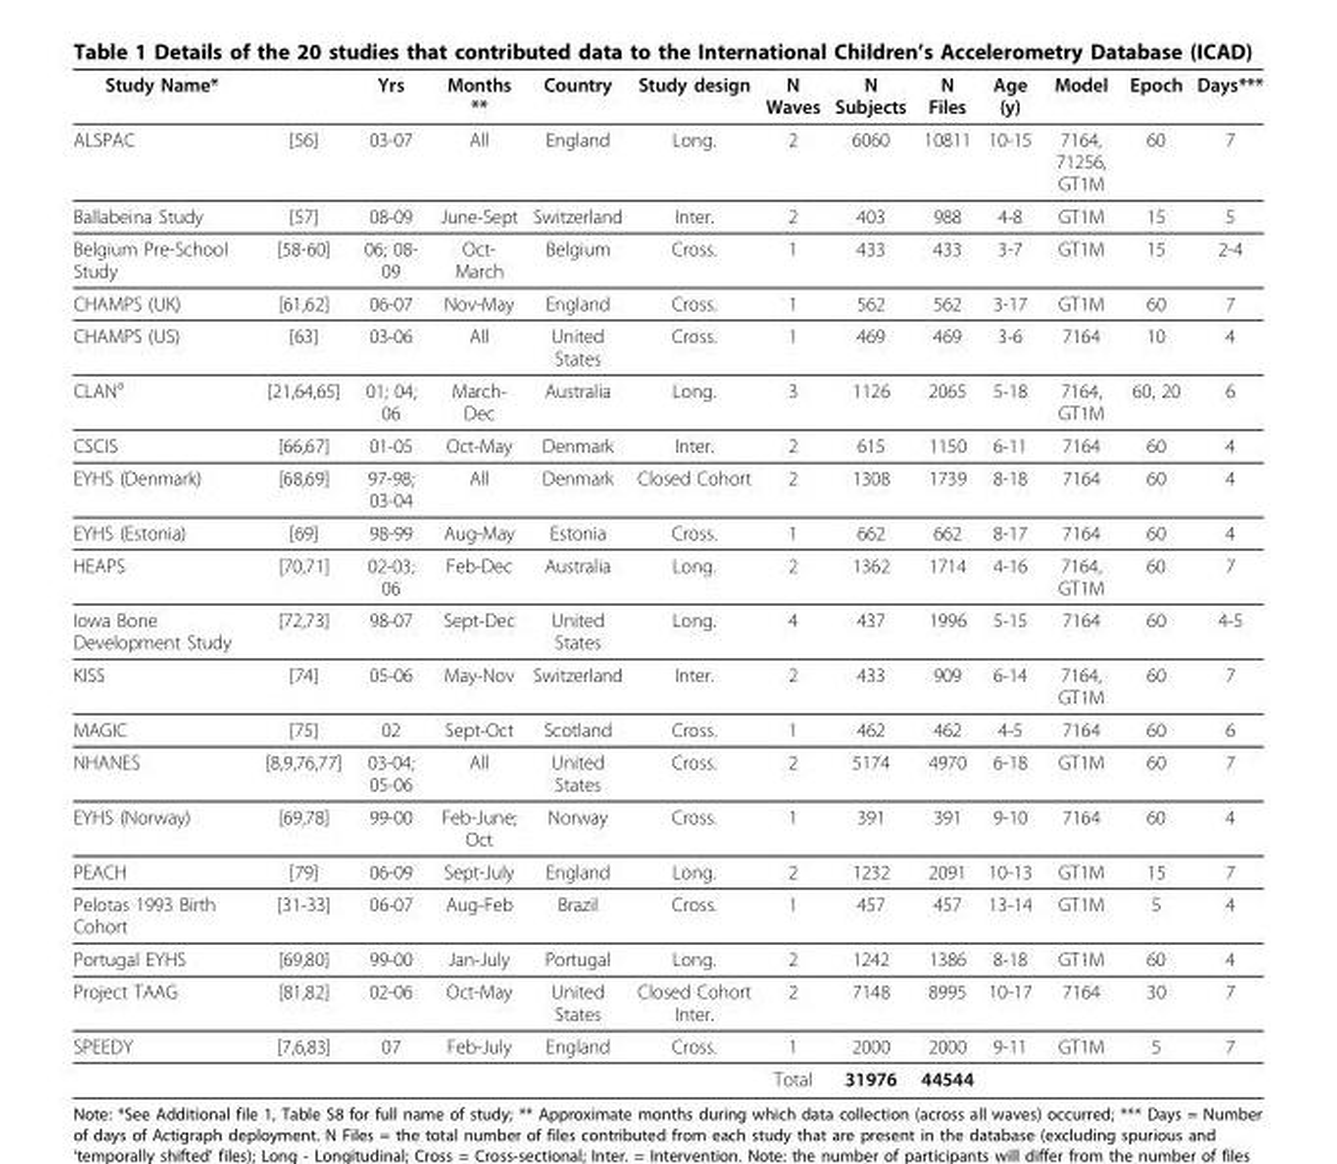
<table><thead><tr><td>Study Name*</td><td></td><td>Yrs</td><td>Months **</td><td>Country</td><td>Study design</td><td>N Waves</td><td>N Subjects</td><td>N Files</td><td>Age (y)</td><td>Model</td><td>Epoch</td><td>Days***</td></tr></thead><tbody><tr><td>ALSPAC</td><td>[56]</td><td>03-07</td><td>All</td><td>England</td><td>Long.</td><td>2</td><td>6060</td><td>10811</td><td>10-15</td><td>7164, 71256, GT1M</td><td>60</td><td>7</td></tr><tr><td>Ballabeina Study</td><td>[57]</td><td>08-09</td><td>June-Sept</td><td>Switzerland</td><td>Inter.</td><td>2</td><td>403</td><td>988</td><td>4-8</td><td>GT1M</td><td>15</td><td>5</td></tr><tr><td>Belgium Pre-School Study</td><td>[58-60]</td><td>06; 08- 09</td><td>Oct- March</td><td>Belgium</td><td>Cross.</td><td>1</td><td>433</td><td>433</td><td>3-7</td><td>GT1M</td><td>15</td><td>2-4</td></tr><tr><td>CHAMPS (UK)</td><td>[61,62]</td><td>06-07</td><td>Nov-May</td><td>England</td><td>Cross.</td><td>1</td><td>562</td><td>562</td><td>3-17</td><td>GT1M</td><td>60</td><td>7</td></tr><tr><td>CHAMPS (US)</td><td>[63]</td><td>03-06</td><td>All</td><td>United States</td><td>Cross.</td><td>1</td><td>469</td><td>469</td><td>3-6</td><td>7164</td><td>10</td><td>4</td></tr><tr><td>CLAN<sup>a</sup></td><td>[21,64,65]</td><td>01; 04; 06</td><td>March- Dec</td><td>Australia</td><td>Long.</td><td>3</td><td>1126</td><td>2065</td><td>5-18</td><td>7164, GT1M</td><td>60, 20</td><td>6</td></tr><tr><td>CSCIS</td><td>[66,67]</td><td>01-05</td><td>Oct-May</td><td>Denmark</td><td>Inter.</td><td>2</td><td>615</td><td>1150</td><td>6-11</td><td>7164</td><td>60</td><td>4</td></tr><tr><td>EYHS (Denmark)</td><td>[68,69]</td><td>97-98; 03-04</td><td>All</td><td>Denmark</td><td>Closed Cohort</td><td>2</td><td>1308</td><td>1739</td><td>8-18</td><td>7164</td><td>60</td><td>4</td></tr><tr><td>EYHS (Estonia)</td><td>[69]</td><td>98-99</td><td>Aug-May</td><td>Estonia</td><td>Cross.</td><td>1</td><td>662</td><td>662</td><td>8-17</td><td>7164</td><td>60</td><td>4</td></tr><tr><td>HEAPS</td><td>[70,71]</td><td>02-03; 06</td><td>Feb-Dec</td><td>Australia</td><td>Long.</td><td>2</td><td>1362</td><td>1714</td><td>4-16</td><td>7164, GT1M</td><td>60</td><td>7</td></tr><tr><td>Iowa Bone Development Study</td><td>[72,73]</td><td>98-07</td><td>Sept-Dec</td><td>United States</td><td>Long.</td><td>4</td><td>437</td><td>1996</td><td>5-15</td><td>7164</td><td>60</td><td>4-5</td></tr><tr><td>KISS</td><td>[74]</td><td>05-06</td><td>May-Nov</td><td>Switzerland</td><td>Inter.</td><td>2</td><td>433</td><td>909</td><td>6-14</td><td>7164, GT1M</td><td>60</td><td>7</td></tr><tr><td>MAGIC</td><td>[75]</td><td>02</td><td>Sept-Oct</td><td>Scotland</td><td>Cross.</td><td>1</td><td>462</td><td>462</td><td>4-5</td><td>7164</td><td>60</td><td>6</td></tr><tr><td>NHANES</td><td>[8,9,76,77]</td><td>03-04; 05-06</td><td>All</td><td>United States</td><td>Cross.</td><td>2</td><td>5174</td><td>4970</td><td>6-18</td><td>GT1M</td><td>60</td><td>7</td></tr><tr><td>EYHS (Norway)</td><td>[69,78]</td><td>99-00</td><td>Feb-June; Oct</td><td>Norway</td><td>Cross.</td><td>1</td><td>391</td><td>391</td><td>9-10</td><td>7164</td><td>60</td><td>4</td></tr><tr><td>PEACH</td><td>[79]</td><td>06-09</td><td>Sept-July</td><td>England</td><td>Long.</td><td>2</td><td>1232</td><td>2091</td><td>10-13</td><td>GT1M</td><td>15</td><td>7</td></tr><tr><td>Pelotas 1993 Birth Cohort</td><td>[31-33]</td><td>06-07</td><td>Aug-Feb</td><td>Brazil</td><td>Cross.</td><td>1</td><td>457</td><td>457</td><td>13-14</td><td>GT1M</td><td>5</td><td>4</td></tr><tr><td>Portugal EYHS</td><td>[69,80]</td><td>99-00</td><td>Jan-July</td><td>Portugal</td><td>Long.</td><td>2</td><td>1242</td><td>1386</td><td>8-18</td><td>GT1M</td><td>60</td><td>4</td></tr><tr><td>Project TAAG</td><td>[81,82]</td><td>02-06</td><td>Oct-May</td><td>United States</td><td>Closed Cohort Inter.</td><td>2</td><td>7148</td><td>8995</td><td>10-17</td><td>7164</td><td>30</td><td>7</td></tr><tr><td rowspan="2">SPEEDY</td><td>[7,6,83]</td><td>07</td><td>Feb-July</td><td>England</td><td>Cross.</td><td>1</td><td>2000</td><td>2000</td><td>9-11</td><td>GT1M</td><td>5</td><td>7</td></tr><tr><td></td><td></td><td></td><td></td><td></td><td>Total</td><td>31976</td><td>44544</td><td></td><td></td><td></td><td></td></tr></tbody></table>